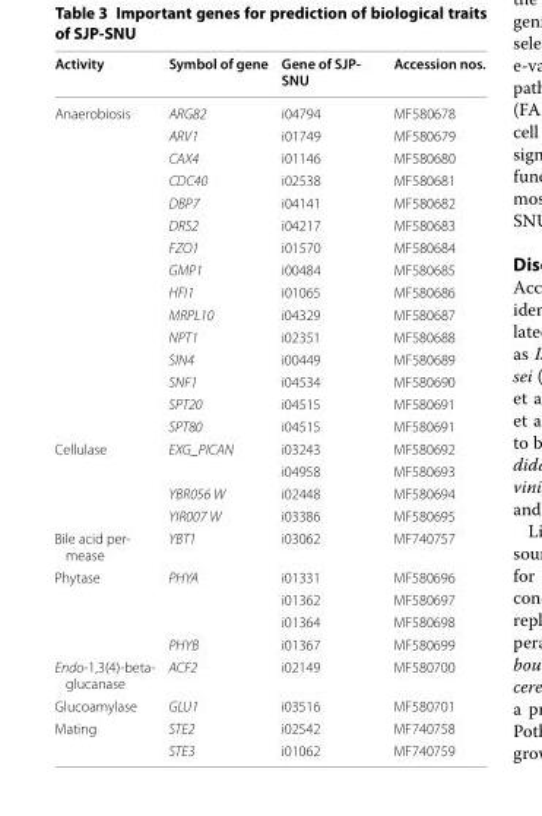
<table><thead><tr><td>Activity</td><td>Symbol of gene</td><td>Gene of SJP‑ SNU</td><td>Accession nos.</td></tr></thead><tbody><tr><td rowspan="15">Anaerobiosis</td><td>ARG82</td><td>i04794</td><td>MF580678</td></tr><tr><td>ARV1</td><td>i01749</td><td>MF580679</td></tr><tr><td>CAX4</td><td>i01146</td><td>MF580680</td></tr><tr><td>CDC40</td><td>i02538</td><td>MF580681</td></tr><tr><td>DBP7</td><td>i04141</td><td>MF580682</td></tr><tr><td>DRS2</td><td>i04217</td><td>MF580683</td></tr><tr><td>FZO1</td><td>i01570</td><td>MF580684</td></tr><tr><td>GMP1</td><td>i00484</td><td>MF580685</td></tr><tr><td>HFI1</td><td>i01065</td><td>MF580686</td></tr><tr><td>MRPL10</td><td>i04329</td><td>MF580687</td></tr><tr><td>NPT1</td><td>i02351</td><td>MF580688</td></tr><tr><td>SIN4</td><td>i00449</td><td>MF580689</td></tr><tr><td>SNF1</td><td>i04534</td><td>MF580690</td></tr><tr><td>SPT20</td><td>i04515</td><td>MF580691</td></tr><tr><td>SPT80</td><td>i04515</td><td>MF580691</td></tr><tr><td rowspan="4">Cellulase</td><td>EXG_PICAN</td><td>i03243</td><td>MF580692</td></tr><tr><td></td><td>i04958</td><td>MF580693</td></tr><tr><td>YBR056 W</td><td>i02448</td><td>MF580694</td></tr><tr><td>YIR007 W</td><td>i03386</td><td>MF580695</td></tr><tr><td>Bile acid per‑ mease</td><td>YBT1</td><td>i03062</td><td>MF740757</td></tr><tr><td rowspan="4">Phytase</td><td>PHYA</td><td>i01331</td><td>MF580696</td></tr><tr><td></td><td>i01362</td><td>MF580697</td></tr><tr><td></td><td>i01364</td><td>MF580698</td></tr><tr><td>PHYB</td><td>i01367</td><td>MF580699</td></tr><tr><td>Endo‑1,3(4)‑beta‑ glucanase</td><td>ACF2</td><td>i02149</td><td>MF580700</td></tr><tr><td>Glucoamylase</td><td>GLU1</td><td>i03516</td><td>MF580701</td></tr><tr><td rowspan="2">Mating</td><td>STE2</td><td>i02542</td><td>MF740758</td></tr><tr><td>STE3</td><td>i01062</td><td>MF740759</td></tr></tbody></table>